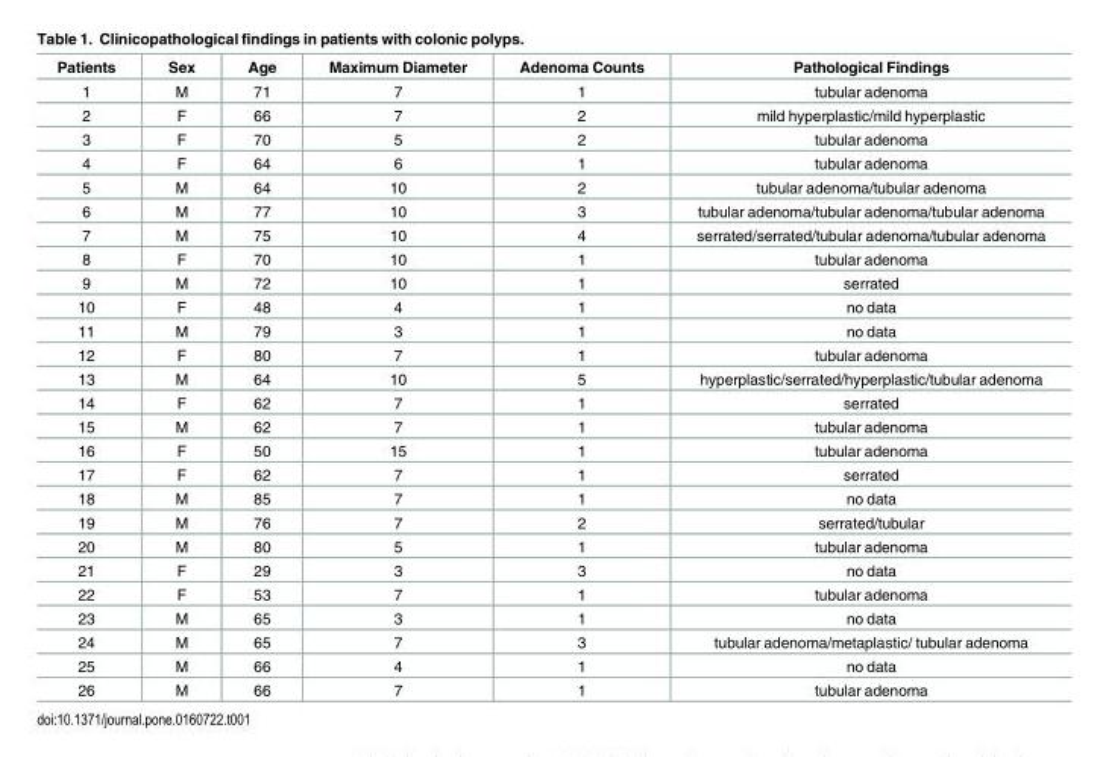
<table><thead><tr><td>Patients</td><td>Sex</td><td>Age</td><td>Maximum Diameter</td><td>Adenoma Counts</td><td>Pathological Findings</td></tr></thead><tbody><tr><td>1</td><td>M</td><td>71</td><td>7</td><td>1</td><td>tubular adenoma</td></tr><tr><td>2</td><td>F</td><td>66</td><td>7</td><td>2</td><td>mild hyperplastic/mild hyperplastic</td></tr><tr><td>3</td><td>F</td><td>70</td><td>5</td><td>2</td><td>tubular adenoma</td></tr><tr><td>4</td><td>F</td><td>64</td><td>6</td><td>1</td><td>tubular adenoma</td></tr><tr><td>5</td><td>M</td><td>64</td><td>10</td><td>2</td><td>tubular adenoma/tubular adenoma</td></tr><tr><td>6</td><td>M</td><td>77</td><td>10</td><td>3</td><td>tubular adenoma/tubular adenoma/tubular adenoma</td></tr><tr><td>7</td><td>M</td><td>75</td><td>10</td><td>4</td><td>serrated/serrated/tubular adenoma/tubular adenoma</td></tr><tr><td>8</td><td>F</td><td>70</td><td>10</td><td>1</td><td>tubular adenoma</td></tr><tr><td>9</td><td>M</td><td>72</td><td>10</td><td>1</td><td>serrated</td></tr><tr><td>10</td><td>F</td><td>48</td><td>4</td><td>1</td><td>no data</td></tr><tr><td>11</td><td>M</td><td>79</td><td>3</td><td>1</td><td>no data</td></tr><tr><td>12</td><td>F</td><td>80</td><td>7</td><td>1</td><td>tubular adenoma</td></tr><tr><td>13</td><td>M</td><td>64</td><td>10</td><td>5</td><td>hyperplastic/serrated/hyperplastic/tubular adenoma</td></tr><tr><td>14</td><td>F</td><td>62</td><td>7</td><td>1</td><td>serrated</td></tr><tr><td>15</td><td>M</td><td>62</td><td>7</td><td>1</td><td>tubular adenoma</td></tr><tr><td>16</td><td>F</td><td>50</td><td>15</td><td>1</td><td>tubular adenoma</td></tr><tr><td>17</td><td>F</td><td>62</td><td>7</td><td>1</td><td>serrated</td></tr><tr><td>18</td><td>M</td><td>85</td><td>7</td><td>1</td><td>no data</td></tr><tr><td>19</td><td>M</td><td>76</td><td>7</td><td>2</td><td>serrated/tubular</td></tr><tr><td>20</td><td>M</td><td>80</td><td>5</td><td>1</td><td>tubular adenoma</td></tr><tr><td>21</td><td>F</td><td>29</td><td>3</td><td>3</td><td>no data</td></tr><tr><td>22</td><td>F</td><td>53</td><td>7</td><td>1</td><td>tubular adenoma</td></tr><tr><td>23</td><td>M</td><td>65</td><td>3</td><td>1</td><td>no data</td></tr><tr><td>24</td><td>M</td><td>65</td><td>7</td><td>3</td><td>tubular adenoma/metaplastic/ tubular adenoma</td></tr><tr><td>25</td><td>M</td><td>66</td><td>4</td><td>1</td><td>no data</td></tr><tr><td>26</td><td>M</td><td>66</td><td>7</td><td>1</td><td>tubular adenoma</td></tr></tbody></table>